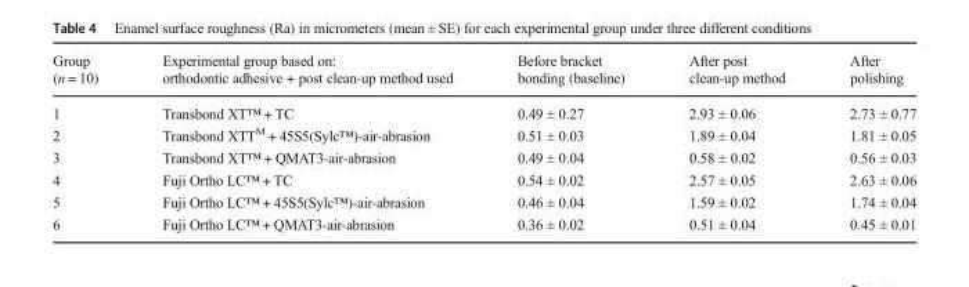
<table><thead><tr><td>Group (n = 10)</td><td>Experimental group based on: orthodontic adhesive + post clean-up method used</td><td>Before bracket bonding (baseline)</td><td>After post clean-up method</td><td>After polishing</td></tr></thead><tbody><tr><td>1</td><td>Transbond XT™ + TC</td><td>0.49 ± 0.27</td><td>2.93 ± 0.06</td><td>2.73 ± 0.77</td></tr><tr><td>2</td><td>Transbond XTT<sup>M</sup> + 45S5(Sylc™)-air-abrasion</td><td>0.51 ± 0.03</td><td>1.89 ± 0.04</td><td>1.81 ± 0.05</td></tr><tr><td>3</td><td>Transbond XT™ + QMAT3-air-abrasion</td><td>0.49 ± 0.04</td><td>0.58 ± 0.02</td><td>0.56 ± 0.03</td></tr><tr><td>4</td><td>Fuji Ortho LC™ + TC</td><td>0.54 ± 0.02</td><td>2.57 ± 0.05</td><td>2.63 ± 0.06</td></tr><tr><td>5</td><td>Fuji Ortho LC™ + 45S5(Sylc™)-air-abrasion</td><td>0.46 ± 0.04</td><td>1.59 ± 0.02</td><td>1.74 ± 0.04</td></tr><tr><td>6</td><td>Fuji Ortho LC™ + QMAT3-air-abrasion</td><td>0.36 ± 0.02</td><td>0.51 ± 0.04</td><td>0.45 ± 0.01</td></tr></tbody></table>